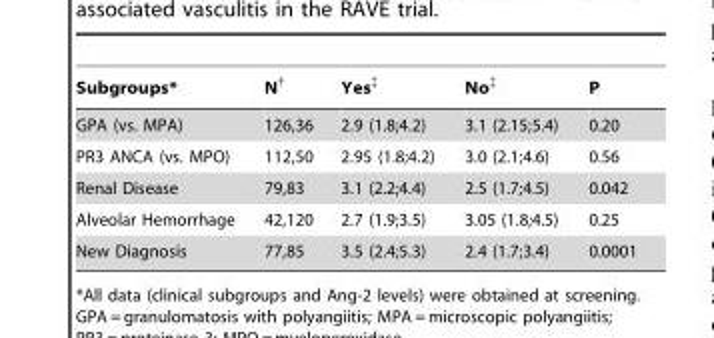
<table><thead><tr><td>Subgroups*</td><td>N†</td><td>Yes‡</td><td>No‡</td><td>P</td></tr></thead><tbody><tr><td>GPA (vs. MPA)</td><td>126,36</td><td>2.9 (1.8;4.2)</td><td>3.1 (2.15;5.4)</td><td>0.20</td></tr><tr><td>PR3 ANCA (vs. MPO)</td><td>112,50</td><td>2.95 (1.8;4.2)</td><td>3.0 (2.1;4.6)</td><td>0.56</td></tr><tr><td>Renal Disease</td><td>79,83</td><td>3.1 (2.2;4.4)</td><td>2.5 (1.7;4.5)</td><td>0.042</td></tr><tr><td>Alveolar Hemorrhage</td><td>42,120</td><td>2.7 (1.9;3.5)</td><td>3.05 (1.8;4.5)</td><td>0.25</td></tr><tr><td>New Diagnosis</td><td>77,85</td><td>3.5 (2.4;5.3)</td><td>2.4 (1.7;3.4)</td><td>0.0001</td></tr></tbody></table>